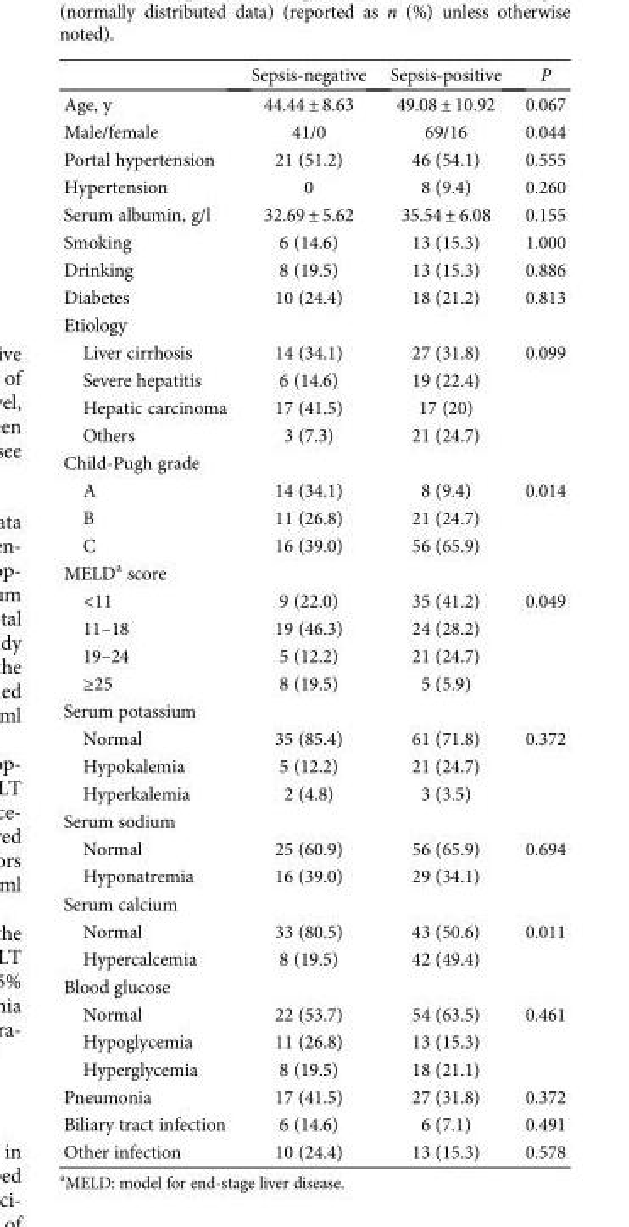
<table><thead><tr><td></td><td>Sepsis-negative</td><td>Sepsis-positive</td><td>P</td></tr></thead><tbody><tr><td>Age, y</td><td>44.44 ± 8.63</td><td>49.08 ± 10.92</td><td>0.067</td></tr><tr><td>Male/female</td><td>41/0</td><td>69/16</td><td>0.044</td></tr><tr><td>Portal hypertension</td><td>21 (51.2)</td><td>46 (54.1)</td><td>0.555</td></tr><tr><td>Hypertension</td><td>0</td><td>8 (9.4)</td><td>0.260</td></tr><tr><td>Serum albumin, g/l</td><td>32.69 ± 5.62</td><td>35.54 ± 6.08</td><td>0.155</td></tr><tr><td>Smoking</td><td>6 (14.6)</td><td>13 (15.3)</td><td>1.000</td></tr><tr><td>Drinking</td><td>8 (19.5)</td><td>13 (15.3)</td><td>0.886</td></tr><tr><td>Diabetes</td><td>10 (24.4)</td><td>18 (21.2)</td><td>0.813</td></tr><tr><td colspan="4">Etiology</td></tr><tr><td>Liver cirrhosis</td><td>14 (34.1)</td><td>27 (31.8)</td><td>0.099</td></tr><tr><td>Severe hepatitis</td><td>6 (14.6)</td><td>19 (22.4)</td><td></td></tr><tr><td>Hepatic carcinoma</td><td>17 (41.5)</td><td>17 (20)</td><td></td></tr><tr><td>Others</td><td>3 (7.3)</td><td>21 (24.7)</td><td></td></tr><tr><td colspan="4">Child-Pugh grade</td></tr><tr><td>A</td><td>14 (34.1)</td><td>8 (9.4)</td><td>0.014</td></tr><tr><td>B</td><td>11 (26.8)</td><td>21 (24.7)</td><td></td></tr><tr><td>C</td><td>16 (39.0)</td><td>56 (65.9)</td><td></td></tr><tr><td colspan="4">MELD<sup>a</sup> score</td></tr><tr><td>&lt;11</td><td>9 (22.0)</td><td>35 (41.2)</td><td>0.049</td></tr><tr><td>11–18</td><td>19 (46.3)</td><td>24 (28.2)</td><td></td></tr><tr><td>19–24</td><td>5 (12.2)</td><td>21 (24.7)</td><td></td></tr><tr><td>≥25</td><td>8 (19.5)</td><td>5 (5.9)</td><td></td></tr><tr><td colspan="4">Serum potassium</td></tr><tr><td>Normal</td><td>35 (85.4)</td><td>61 (71.8)</td><td>0.372</td></tr><tr><td>Hypokalemia</td><td>5 (12.2)</td><td>21 (24.7)</td><td></td></tr><tr><td>Hyperkalemia</td><td>2 (4.8)</td><td>3 (3.5)</td><td></td></tr><tr><td colspan="4">Serum sodium</td></tr><tr><td>Normal</td><td>25 (60.9)</td><td>56 (65.9)</td><td>0.694</td></tr><tr><td>Hyponatremia</td><td>16 (39.0)</td><td>29 (34.1)</td><td></td></tr><tr><td colspan="4">Serum calcium</td></tr><tr><td>Normal</td><td>33 (80.5)</td><td>43 (50.6)</td><td>0.011</td></tr><tr><td>Hypercalcemia</td><td>8 (19.5)</td><td>42 (49.4)</td><td></td></tr><tr><td colspan="4">Blood glucose</td></tr><tr><td>Normal</td><td>22 (53.7)</td><td>54 (63.5)</td><td>0.461</td></tr><tr><td>Hypoglycemia</td><td>11 (26.8)</td><td>13 (15.3)</td><td></td></tr><tr><td>Hyperglycemia</td><td>8 (19.5)</td><td>18 (21.1)</td><td></td></tr><tr><td>Pneumonia</td><td>17 (41.5)</td><td>27 (31.8)</td><td>0.372</td></tr><tr><td>Biliary tract infection</td><td>6 (14.6)</td><td>6 (7.1)</td><td>0.491</td></tr><tr><td>Other infection</td><td>10 (24.4)</td><td>13 (15.3)</td><td>0.578</td></tr></tbody></table>